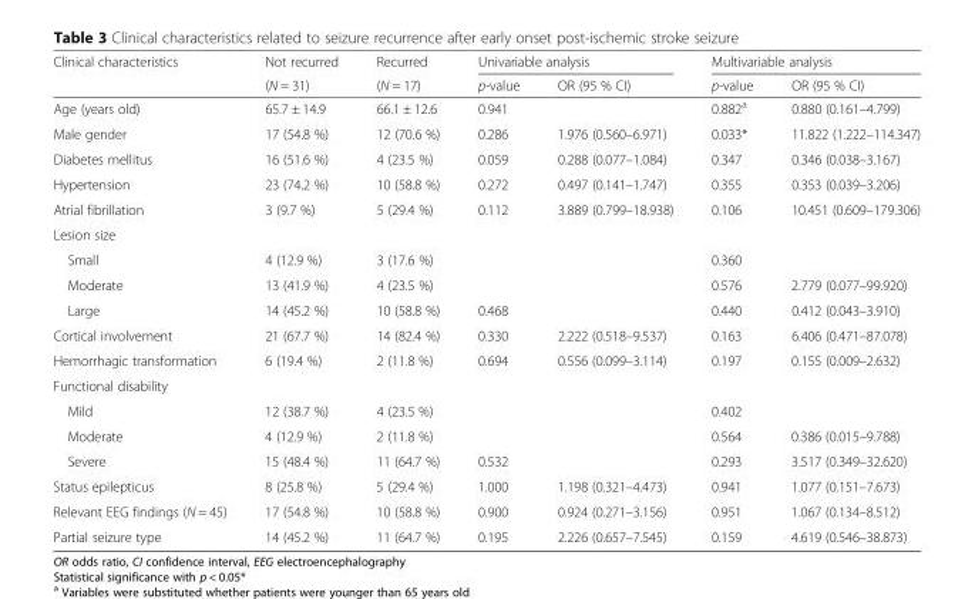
<table><thead><tr><td rowspan="2">Clinical characteristics</td><td rowspan="2">Not recurred (N = 31)</td><td rowspan="2">Recurred (N = 17)</td><td colspan="2">Univariable analysis</td><td colspan="2">Multivariable analysis</td></tr><tr><td>p-value</td><td>OR (95 % CI)</td><td>p-value</td><td>OR (95 % CI)</td></tr></thead><tbody><tr><td>Age (years old)</td><td>65.7 ± 14.9</td><td>66.1 ± 12.6</td><td>0.941</td><td></td><td>0.882<sup>a</sup></td><td>0.880 (0.161–4.799)</td></tr><tr><td>Male gender</td><td>17 (54.8 %)</td><td>12 (70.6 %)</td><td>0.286</td><td>1.976 (0.560–6.971)</td><td>0.033*</td><td>11.822 (1.222–114.347)</td></tr><tr><td>Diabetes mellitus</td><td>16 (51.6 %)</td><td>4 (23.5 %)</td><td>0.059</td><td>0.288 (0.077–1.084)</td><td>0.347</td><td>0.346 (0.038–3.167)</td></tr><tr><td>Hypertension</td><td>23 (74.2 %)</td><td>10 (58.8 %)</td><td>0.272</td><td>0.497 (0.141–1.747)</td><td>0.355</td><td>0.353 (0.039–3.206)</td></tr><tr><td>Atrial fibrillation</td><td>3 (9.7 %)</td><td>5 (29.4 %)</td><td>0.112</td><td>3.889 (0.799–18.938)</td><td>0.106</td><td>10.451 (0.609–179.306)</td></tr><tr><td colspan="7">Lesion size</td></tr><tr><td>Small</td><td>4 (12.9 %)</td><td>3 (17.6 %)</td><td></td><td></td><td>0.360</td><td></td></tr><tr><td>Moderate</td><td>13 (41.9 %)</td><td>4 (23.5 %)</td><td></td><td></td><td>0.576</td><td>2.779 (0.077–99.920)</td></tr><tr><td>Large</td><td>14 (45.2 %)</td><td>10 (58.8 %)</td><td>0.468</td><td></td><td>0.440</td><td>0.412 (0.043–3.910)</td></tr><tr><td>Cortical involvement</td><td>21 (67.7 %)</td><td>14 (82.4 %)</td><td>0.330</td><td>2.222 (0.518–9.537)</td><td>0.163</td><td>6.406 (0.471–87.078)</td></tr><tr><td>Hemorrhagic transformation</td><td>6 (19.4 %)</td><td>2 (11.8 %)</td><td>0.694</td><td>0.556 (0.099–3.114)</td><td>0.197</td><td>0.155 (0.009–2.632)</td></tr><tr><td colspan="7">Functional disability</td></tr><tr><td>Mild</td><td>12 (38.7 %)</td><td>4 (23.5 %)</td><td></td><td></td><td>0.402</td><td></td></tr><tr><td>Moderate</td><td>4 (12.9 %)</td><td>2 (11.8 %)</td><td></td><td></td><td>0.564</td><td>0.386 (0.015–9.788)</td></tr><tr><td>Severe</td><td>15 (48.4 %)</td><td>11 (64.7 %)</td><td>0.532</td><td></td><td>0.293</td><td>3.517 (0.349–32.620)</td></tr><tr><td>Status epilepticus</td><td>8 (25.8 %)</td><td>5 (29.4 %)</td><td>1.000</td><td>1.198 (0.321–4.473)</td><td>0.941</td><td>1.077 (0.151–7.673)</td></tr><tr><td>Relevant EEG findings (N = 45)</td><td>17 (54.8 %)</td><td>10 (58.8 %)</td><td>0.900</td><td>0.924 (0.271–3.156)</td><td>0.951</td><td>1.067 (0.134–8.512)</td></tr><tr><td>Partial seizure type</td><td>14 (45.2 %)</td><td>11 (64.7 %)</td><td>0.195</td><td>2.226 (0.657–7.545)</td><td>0.159</td><td>4.619 (0.546–38.873)</td></tr></tbody></table>